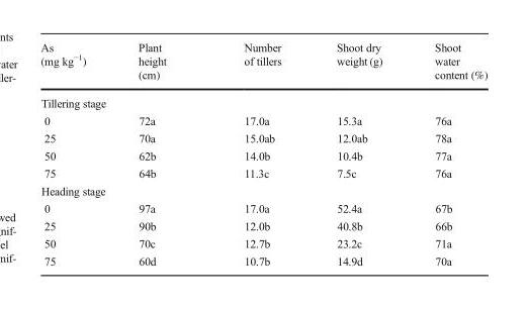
<table><thead><tr><td>As (mg kg<sup>−1</sup>)</td><td>Plant height (cm)</td><td>Number of tillers</td><td>Shoot dry weight (g)</td><td>Shoot water content (%)</td></tr></thead><tbody><tr><td colspan="5">Tillering stage</td></tr><tr><td>0</td><td>72a</td><td>17.0a</td><td>15.3a</td><td>76a</td></tr><tr><td>25</td><td>70a</td><td>15.0ab</td><td>12.0ab</td><td>78a</td></tr><tr><td>50</td><td>62b</td><td>14.0b</td><td>10.4b</td><td>77a</td></tr><tr><td>75</td><td>64b</td><td>11.3c</td><td>7.5c</td><td>76a</td></tr><tr><td colspan="5">Heading stage</td></tr><tr><td>0</td><td>97a</td><td>17.0a</td><td>52.4a</td><td>67b</td></tr><tr><td>25</td><td>90b</td><td>12.0b</td><td>40.8b</td><td>66b</td></tr><tr><td>50</td><td>70c</td><td>12.7b</td><td>23.2c</td><td>71a</td></tr><tr><td>75</td><td>60d</td><td>10.7b</td><td>14.9d</td><td>70a</td></tr></tbody></table>